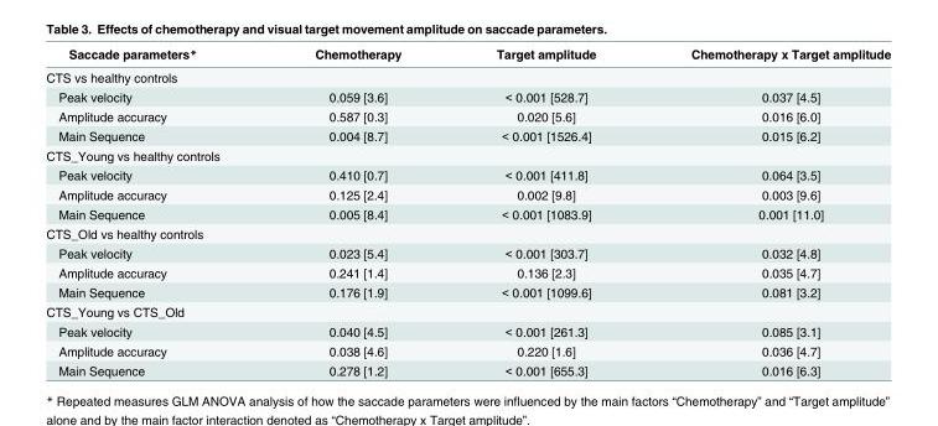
<table><thead><tr><td>Saccade parameters*</td><td>Chemotherapy</td><td>Target amplitude</td><td>Chemotherapy x Target amplitude</td></tr></thead><tbody><tr><td colspan="4">CTS vs healthy controls</td></tr><tr><td>Peak velocity</td><td>0.059 [3.6]</td><td>&lt; 0.001 [528.7]</td><td>0.037 [4.5]</td></tr><tr><td>Amplitude accuracy</td><td>0.587 [0.3]</td><td>0.020 [5.6]</td><td>0.016 [6.0]</td></tr><tr><td>Main Sequence</td><td>0.004 [8.7]</td><td>&lt; 0.001 [1526.4]</td><td>0.015 [6.2]</td></tr><tr><td colspan="4">CTS_Young vs healthy controls</td></tr><tr><td>Peak velocity</td><td>0.410 [0.7]</td><td>&lt; 0.001 [411.8]</td><td>0.064 [3.5]</td></tr><tr><td>Amplitude accuracy</td><td>0.125 [2.4]</td><td>0.002 [9.8]</td><td>0.003 [9.6]</td></tr><tr><td>Main Sequence</td><td>0.005 [8.4]</td><td>&lt; 0.001 [1083.9]</td><td>0.001 [11.0]</td></tr><tr><td colspan="4">CTS_Old vs healthy controls</td></tr><tr><td>Peak velocity</td><td>0.023 [5.4]</td><td>&lt; 0.001 [303.7]</td><td>0.032 [4.8]</td></tr><tr><td>Amplitude accuracy</td><td>0.241 [1.4]</td><td>0.136 [2.3]</td><td>0.035 [4.7]</td></tr><tr><td>Main Sequence</td><td>0.176 [1.9]</td><td>&lt; 0.001 [1099.6]</td><td>0.081 [3.2]</td></tr><tr><td colspan="4">CTS_Young vs CTS_Old</td></tr><tr><td>Peak velocity</td><td>0.040 [4.5]</td><td>&lt; 0.001 [261.3]</td><td>0.085 [3.1]</td></tr><tr><td>Amplitude accuracy</td><td>0.038 [4.6]</td><td>0.220 [1.6]</td><td>0.036 [4.7]</td></tr><tr><td>Main Sequence</td><td>0.278 [1.2]</td><td>&lt; 0.001 [655.3]</td><td>0.016 [6.3]</td></tr></tbody></table>